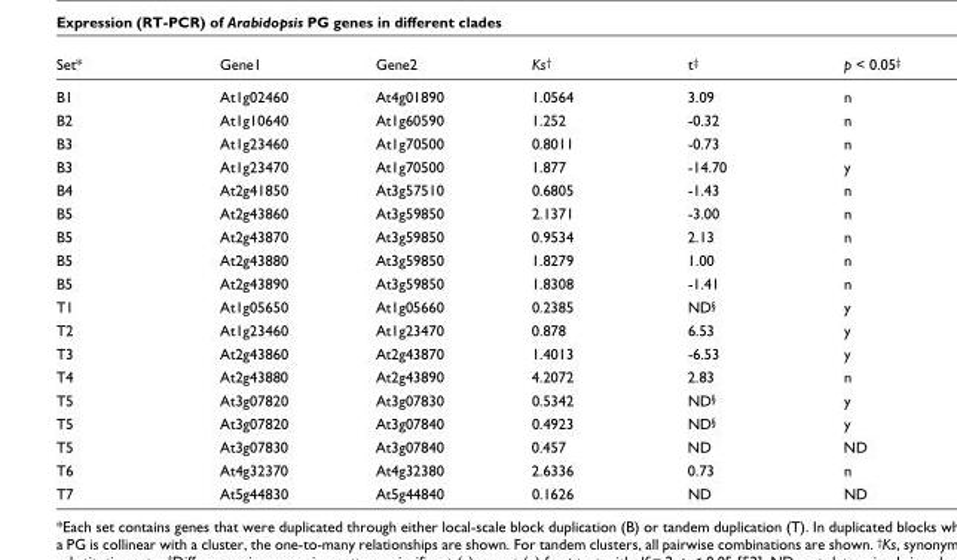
<table><thead><tr><td>Set*</td><td>Gene1</td><td>Gene2</td><td>Ks†</td><td>t‡</td><td>p &lt; 0.05‡</td></tr></thead><tbody><tr><td>B1</td><td>At1g02460</td><td>At4g01890</td><td>1.0564</td><td>3.09</td><td>n</td></tr><tr><td>B2</td><td>At1g10640</td><td>At1g60590</td><td>1.252</td><td>-0.32</td><td>n</td></tr><tr><td>B3</td><td>At1g23460</td><td>At1g70500</td><td>0.8011</td><td>-0.73</td><td>n</td></tr><tr><td>B3</td><td>At1g23470</td><td>At1g70500</td><td>1.877</td><td>-14.70</td><td>y</td></tr><tr><td>B4</td><td>At2g41850</td><td>At3g57510</td><td>0.6805</td><td>-1.43</td><td>n</td></tr><tr><td>B5</td><td>At2g43860</td><td>At3g59850</td><td>2.1371</td><td>-3.00</td><td>n</td></tr><tr><td>B5</td><td>At2g43870</td><td>At3g59850</td><td>0.9534</td><td>2.13</td><td>n</td></tr><tr><td>B5</td><td>At2g43880</td><td>At3g59850</td><td>1.8279</td><td>1.00</td><td>n</td></tr><tr><td>B5</td><td>At2g43890</td><td>At3g59850</td><td>1.8308</td><td>-1.41</td><td>n</td></tr><tr><td>T1</td><td>At1g05650</td><td>At1g05660</td><td>0.2385</td><td>ND§</td><td>y</td></tr><tr><td>T2</td><td>At1g23460</td><td>At1g23470</td><td>0.878</td><td>6.53</td><td>y</td></tr><tr><td>T3</td><td>At2g43860</td><td>At2g43870</td><td>1.4013</td><td>-6.53</td><td>y</td></tr><tr><td>T4</td><td>At2g43880</td><td>At2g43890</td><td>4.2072</td><td>2.83</td><td>n</td></tr><tr><td>T5</td><td>At3g07820</td><td>At3g07830</td><td>0.5342</td><td>ND§</td><td>y</td></tr><tr><td>T5</td><td>At3g07820</td><td>At3g07840</td><td>0.4923</td><td>ND§</td><td>y</td></tr><tr><td>T5</td><td>At3g07830</td><td>At3g07840</td><td>0.457</td><td>ND</td><td>ND</td></tr><tr><td>T6</td><td>At4g32370</td><td>At4g32380</td><td>2.6336</td><td>0.73</td><td>n</td></tr><tr><td>T7</td><td>At5g44830</td><td>At5g44840</td><td>0.1626</td><td>ND</td><td>ND</td></tr></tbody></table>